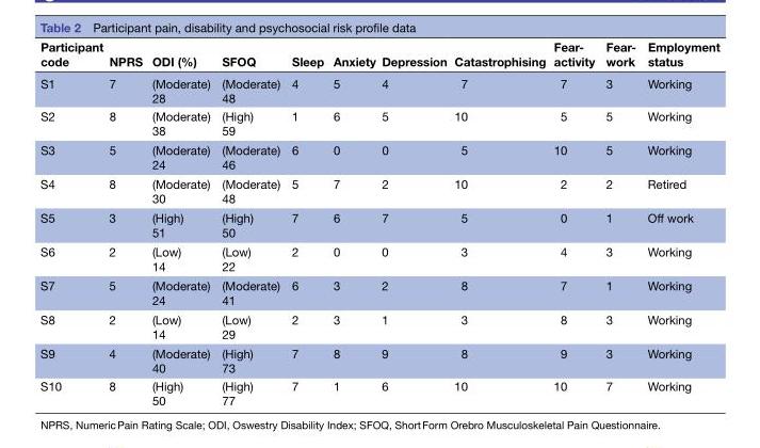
<table><thead><tr><td>Participant code</td><td>NPRS</td><td>ODI (%)</td><td>SFOQ</td><td>Sleep</td><td>Anxiety</td><td>Depression</td><td>Catastrophising</td><td>Fear- activity</td><td>Fear- work</td><td>Employment status</td></tr></thead><tbody><tr><td>S1</td><td>7</td><td>(Moderate) 28</td><td>(Moderate) 48</td><td>4</td><td>5</td><td>4</td><td>7</td><td>7</td><td>3</td><td>Working</td></tr><tr><td>S2</td><td>8</td><td>(Moderate) 38</td><td>(High) 59</td><td>1</td><td>6</td><td>5</td><td>10</td><td>5</td><td>5</td><td>Working</td></tr><tr><td>S3</td><td>5</td><td>(Moderate) 24</td><td>(Moderate) 46</td><td>6</td><td>0</td><td>0</td><td>5</td><td>10</td><td>5</td><td>Working</td></tr><tr><td>S4</td><td>8</td><td>(Moderate) 30</td><td>(Moderate) 48</td><td>5</td><td>7</td><td>2</td><td>10</td><td>2</td><td>2</td><td>Retired</td></tr><tr><td>S5</td><td>3</td><td>(High) 51</td><td>(High) 50</td><td>7</td><td>6</td><td>7</td><td>5</td><td>0</td><td>1</td><td>Off work</td></tr><tr><td>S6</td><td>2</td><td>(Low) 14</td><td>(Low) 22</td><td>2</td><td>0</td><td>0</td><td>3</td><td>4</td><td>3</td><td>Working</td></tr><tr><td>S7</td><td>5</td><td>(Moderate) 24</td><td>(Moderate) 41</td><td>6</td><td>3</td><td>2</td><td>8</td><td>7</td><td>1</td><td>Working</td></tr><tr><td>S8</td><td>2</td><td>(Low) 14</td><td>(Low) 29</td><td>2</td><td>3</td><td>1</td><td>3</td><td>8</td><td>3</td><td>Working</td></tr><tr><td>S9</td><td>4</td><td>(Moderate) 40</td><td>(High) 73</td><td>7</td><td>8</td><td>9</td><td>8</td><td>9</td><td>3</td><td>Working</td></tr><tr><td>S10</td><td>8</td><td>(High) 50</td><td>(High) 77</td><td>7</td><td>1</td><td>6</td><td>10</td><td>10</td><td>7</td><td>Working</td></tr></tbody></table>